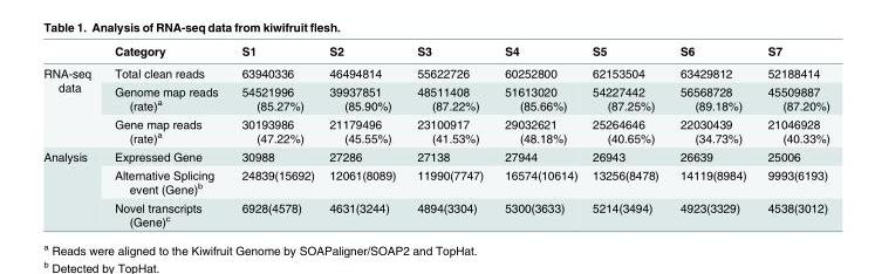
<table><thead><tr><td></td><td>Category</td><td>S1</td><td>S2</td><td>S3</td><td>S4</td><td>S5</td><td>S6</td><td>S7</td></tr></thead><tbody><tr><td rowspan="3">RNA-seq data</td><td>Total clean reads</td><td>63940336</td><td>46494814</td><td>55622726</td><td>60252800</td><td>62153504</td><td>63429812</td><td>52188414</td></tr><tr><td>Genome map reads (rate)<sup>a</sup></td><td>54521996 (85.27%)</td><td>39937851 (85.90%)</td><td>48511408 (87.22%)</td><td>51613020 (85.66%)</td><td>54227442 (87.25%)</td><td>56568728 (89.18%)</td><td>45509887 (87.20%)</td></tr><tr><td>Gene map reads (rate)<sup>a</sup></td><td>30193986 (47.22%)</td><td>21179496 (45.55%)</td><td>23100917 (41.53%)</td><td>29032621 (48.18%)</td><td>25264646 (40.65%)</td><td>22030439 (34.73%)</td><td>21046928 (40.33%)</td></tr><tr><td rowspan="3">Analysis</td><td>Expressed Gene</td><td>30988</td><td>27286</td><td>27138</td><td>27944</td><td>26943</td><td>26639</td><td>25006</td></tr><tr><td>Alternative Splicing event (Gene)<sup>b</sup></td><td>24839(15692)</td><td>12061(8089)</td><td>11990(7747)</td><td>16574(10614)</td><td>13256(8478)</td><td>14119(8984)</td><td>9993(6193)</td></tr><tr><td>Novel transcripts (Gene)<sup>c</sup></td><td>6928(4578)</td><td>4631(3244)</td><td>4894(3304)</td><td>5300(3633)</td><td>5214(3494)</td><td>4923(3329)</td><td>4538(3012)</td></tr></tbody></table>